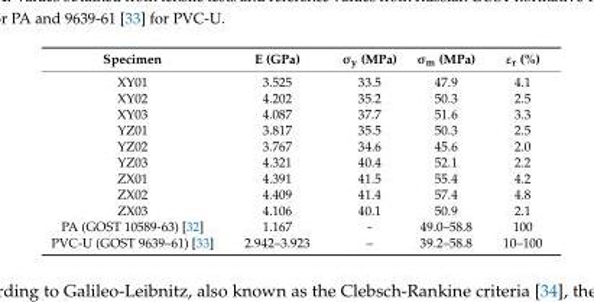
<table><thead><tr><td>Specimen</td><td>E (GPa)</td><td>σ<sub>y</sub> (MPa)</td><td>σ<sub>m</sub> (MPa)</td><td>ε<sub>r</sub> (%)</td></tr></thead><tbody><tr><td>XY01</td><td>3.525</td><td>33.5</td><td>47.9</td><td>4.1</td></tr><tr><td>XY02</td><td>4.202</td><td>35.2</td><td>50.3</td><td>2.5</td></tr><tr><td>XY03</td><td>4.087</td><td>37.7</td><td>51.6</td><td>3.3</td></tr><tr><td>YZ01</td><td>3.817</td><td>35.5</td><td>50.3</td><td>2.5</td></tr><tr><td>YZ02</td><td>3.767</td><td>34.6</td><td>45.6</td><td>2.0</td></tr><tr><td>YZ03</td><td>4.321</td><td>40.4</td><td>52.1</td><td>2.2</td></tr><tr><td>ZX01</td><td>4.391</td><td>41.5</td><td>55.4</td><td>4.2</td></tr><tr><td>ZX02</td><td>4.409</td><td>41.4</td><td>57.4</td><td>4.8</td></tr><tr><td>ZX03</td><td>4.106</td><td>40.1</td><td>50.9</td><td>2.1</td></tr><tr><td>PA (GOST 10589-63) [32]</td><td>1.167</td><td>-</td><td>49.0–58.8</td><td>100</td></tr><tr><td>PVC-U (GOST 9639–61) [33]</td><td>2.942–3.923</td><td>–</td><td>39.2–58.8</td><td>10–100</td></tr></tbody></table>